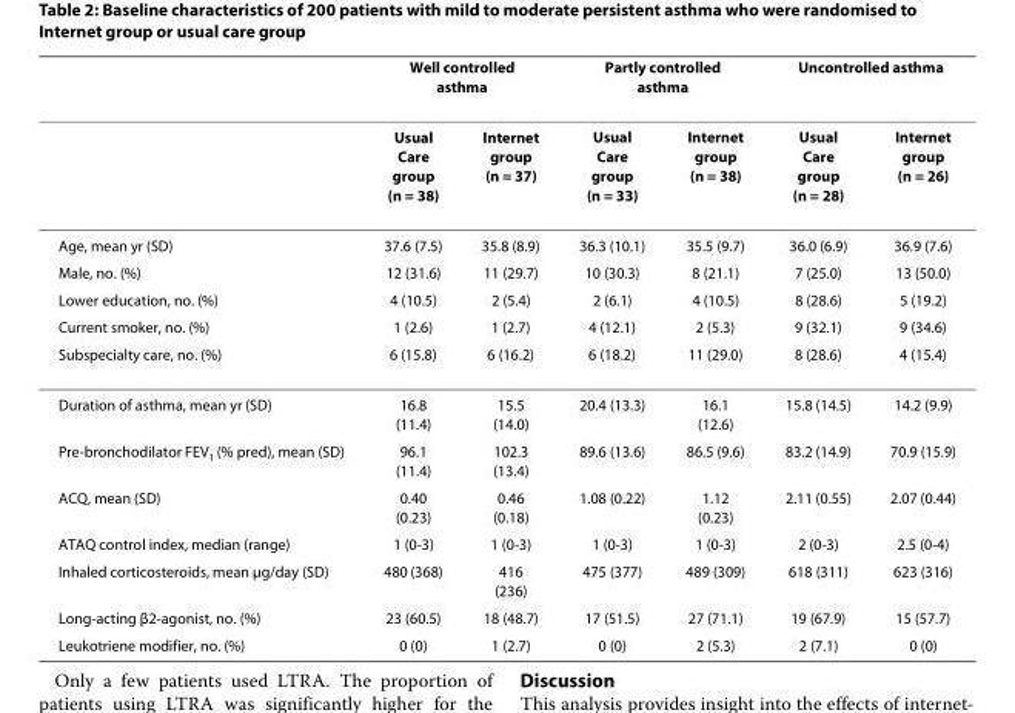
<table><thead><tr><td rowspan="2"></td><td colspan="2">Well controlled asthma</td><td colspan="2">Partly controlled asthma</td><td colspan="2">Uncontrolled asthma</td></tr><tr><td>Usual Care group (n = 38)</td><td>Internet group (n = 37)</td><td>Usual Care group (n = 33)</td><td>Internet group (n = 38)</td><td>Usual Care group (n = 28)</td><td>Internet group (n = 26)</td></tr></thead><tbody><tr><td>Age, mean yr (SD)</td><td>37.6 (7.5)</td><td>35.8 (8.9)</td><td>36.3 (10.1)</td><td>35.5 (9.7)</td><td>36.0 (6.9)</td><td>36.9 (7.6)</td></tr><tr><td>Male, no. (%)</td><td>12 (31.6)</td><td>11 (29.7)</td><td>10 (30.3)</td><td>8 (21.1)</td><td>7 (25.0)</td><td>13 (50.0)</td></tr><tr><td>Lower education, no. (%)</td><td>4 (10.5)</td><td>2 (5.4)</td><td>2 (6.1)</td><td>4 (10.5)</td><td>8 (28.6)</td><td>5 (19.2)</td></tr><tr><td>Current smoker, no. (%)</td><td>1 (2.6)</td><td>1 (2.7)</td><td>4 (12.1)</td><td>2 (5.3)</td><td>9 (32.1)</td><td>9 (34.6)</td></tr><tr><td>Subspecialty care, no. (%)</td><td>6 (15.8)</td><td>6 (16.2)</td><td>6 (18.2)</td><td>11 (29.0)</td><td>8 (28.6)</td><td>4 (15.4)</td></tr><tr><td>Duration of asthma, mean yr (SD)</td><td>16.8 (11.4)</td><td>15.5 (14.0)</td><td>20.4 (13.3)</td><td>16.1 (12.6)</td><td>15.8 (14.5)</td><td>14.2 (9.9)</td></tr><tr><td>Pre-bronchodilator FEV<sub>1</sub> (% pred), mean (SD)</td><td>96.1 (11.4)</td><td>102.3 (13.4)</td><td>89.6 (13.6)</td><td>86.5 (9.6)</td><td>83.2 (14.9)</td><td>70.9 (15.9)</td></tr><tr><td>ACQ, mean (SD)</td><td>0.40 (0.23)</td><td>0.46 (0.18)</td><td>1.08 (0.22)</td><td>1.12 (0.23)</td><td>2.11 (0.55)</td><td>2.07 (0.44)</td></tr><tr><td>ATAQ control index, median (range)</td><td>1 (0-3)</td><td>1 (0-3)</td><td>1 (0-3)</td><td>1 (0-3)</td><td>2 (0-3)</td><td>2.5 (0-4)</td></tr><tr><td>Inhaled corticosteroids, mean μg/day (SD)</td><td>480 (368)</td><td>416 (236)</td><td>475 (377)</td><td>489 (309)</td><td>618 (311)</td><td>623 (316)</td></tr><tr><td>Long-acting β2-agonist, no. (%)</td><td>23 (60.5)</td><td>18 (48.7)</td><td>17 (51.5)</td><td>27 (71.1)</td><td>19 (67.9)</td><td>15 (57.7)</td></tr><tr><td>Leukotriene modifier, no. (%)</td><td>0 (0)</td><td>1 (2.7)</td><td>0 (0)</td><td>2 (5.3)</td><td>2 (7.1)</td><td>0 (0)</td></tr></tbody></table>